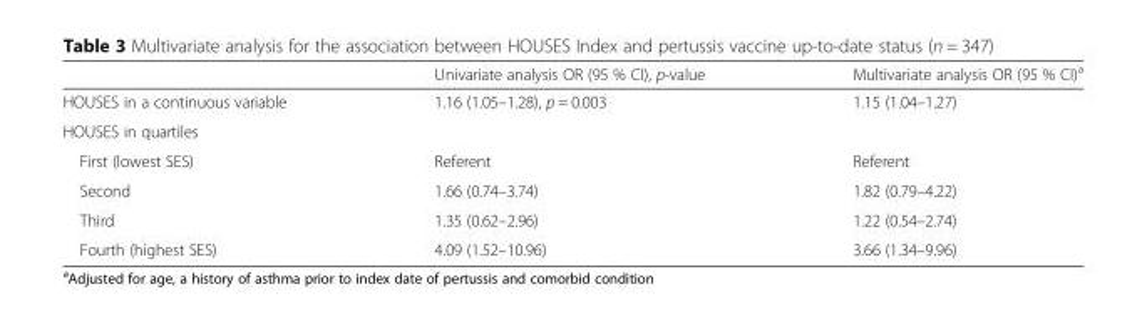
<table><thead><tr><td></td><td>Univariate analysis OR (95 % CI), p-value</td><td>Multivariate analysis OR (95 % CI)<sup>a</sup></td></tr></thead><tbody><tr><td>HOUSES in a continuous variable</td><td>1.16 (1.05–1.28), p = 0.003</td><td>1.15 (1.04–1.27)</td></tr><tr><td colspan="3">HOUSES in quartiles</td></tr><tr><td>First (lowest SES)</td><td>Referent</td><td>Referent</td></tr><tr><td>Second</td><td>1.66 (0.74–3.74)</td><td>1.82 (0.79–4.22)</td></tr><tr><td>Third</td><td>1.35 (0.62–2.96)</td><td>1.22 (0.54–2.74)</td></tr><tr><td>Fourth (highest SES)</td><td>4.09 (1.52–10.96)</td><td>3.66 (1.34–9.96)</td></tr></tbody></table>